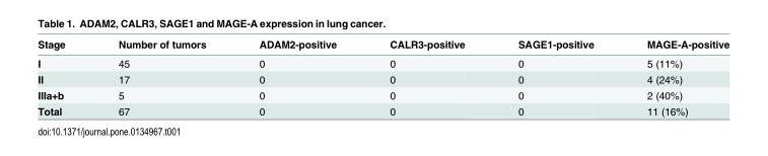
<table><thead><tr><td>Stage</td><td>Number of tumors</td><td>ADAM2-positive</td><td>CALR3-positive</td><td>SAGE1-positive</td><td>MAGE-A-positive</td></tr></thead><tbody><tr><td>I</td><td>45</td><td>0</td><td>0</td><td>0</td><td>5 (11%)</td></tr><tr><td>II</td><td>17</td><td>0</td><td>0</td><td>0</td><td>4 (24%)</td></tr><tr><td>IIIa+b</td><td>5</td><td>0</td><td>0</td><td>0</td><td>2 (40%)</td></tr><tr><td>Total</td><td>67</td><td>0</td><td>0</td><td>0</td><td>11 (16%)</td></tr></tbody></table>